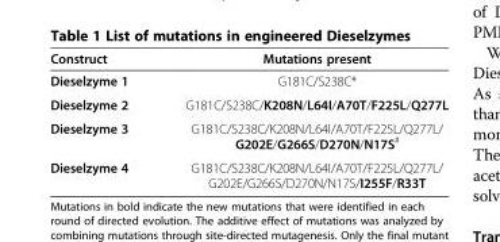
<table><thead><tr><td>Construct</td><td>Mutations present</td></tr></thead><tbody><tr><td>Dieselzyme 1</td><td>G181C/S238C*</td></tr><tr><td>Dieselzyme 2</td><td>G181C/S238C/K208N/L64I/A70T/F225L/Q277L</td></tr><tr><td>Dieselzyme 3</td><td>G181C/S238C/K208N/L64I/A70T/F225L/Q277L/ G202E/G266S/D270N/N17S<sup>#</sup></td></tr><tr><td>Dieselzyme 4</td><td>G181C/S238C/K208N/L64I/A70T/F225L/Q277L/ G202E/G266S/D270N/N17S/I255F/R33T</td></tr></tbody></table>